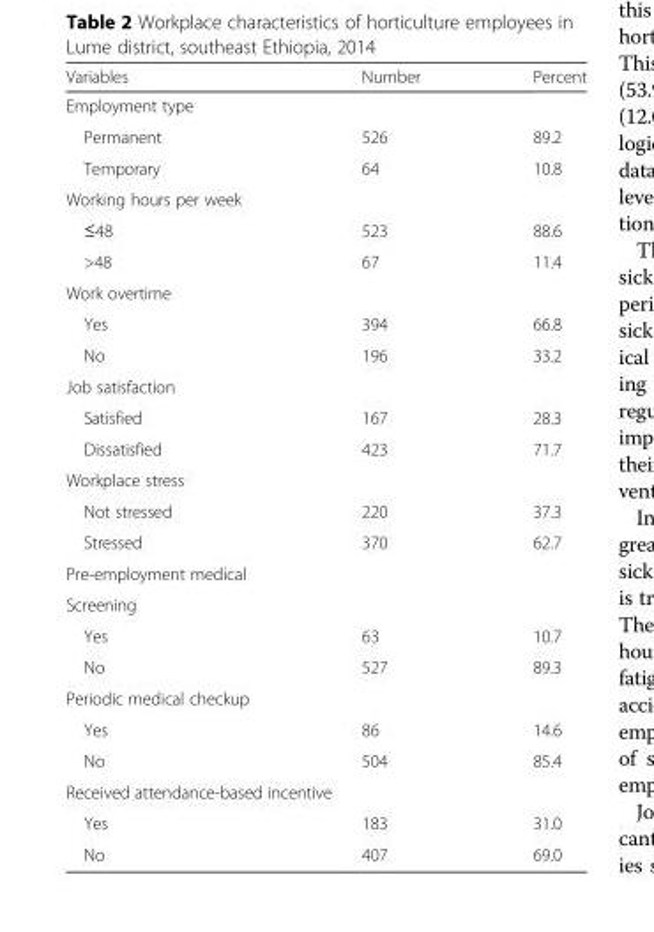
<table><thead><tr><td>Variables</td><td>Number</td><td>Percent</td></tr></thead><tbody><tr><td colspan="3">Employment type</td></tr><tr><td>Permanent</td><td>526</td><td>89.2</td></tr><tr><td>Temporary</td><td>64</td><td>10.8</td></tr><tr><td colspan="3">Working hours per week</td></tr><tr><td>≤48</td><td>523</td><td>88.6</td></tr><tr><td>&gt;48</td><td>67</td><td>11.4</td></tr><tr><td colspan="3">Work overtime</td></tr><tr><td>Yes</td><td>394</td><td>66.8</td></tr><tr><td>No</td><td>196</td><td>33.2</td></tr><tr><td colspan="3">Job satisfaction</td></tr><tr><td>Satisfied</td><td>167</td><td>28.3</td></tr><tr><td>Dissatisfied</td><td>423</td><td>71.7</td></tr><tr><td colspan="3">Workplace stress</td></tr><tr><td>Not stressed</td><td>220</td><td>37.3</td></tr><tr><td>Stressed</td><td>370</td><td>62.7</td></tr><tr><td colspan="3">Pre-employment medical</td></tr><tr><td colspan="3">Screening</td></tr><tr><td>Yes</td><td>63</td><td>10.7</td></tr><tr><td>No</td><td>527</td><td>89.3</td></tr><tr><td colspan="3">Periodic medical checkup</td></tr><tr><td>Yes</td><td>86</td><td>14.6</td></tr><tr><td>No</td><td>504</td><td>85.4</td></tr><tr><td colspan="3">Received attendance-based incentive</td></tr><tr><td>Yes</td><td>183</td><td>31.0</td></tr><tr><td>No</td><td>407</td><td>69.0</td></tr></tbody></table>